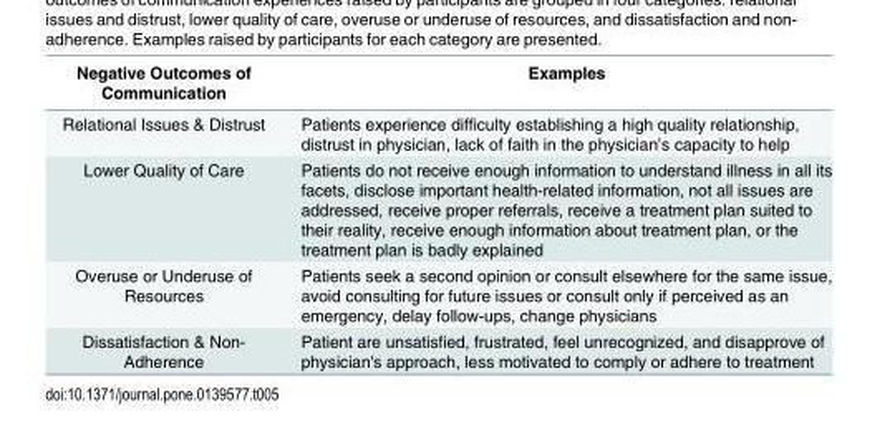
<table><thead><tr><td>Negative Outcomes of Communication</td><td>Examples</td></tr></thead><tbody><tr><td>Relational Issues &amp; Distrust</td><td>Patients experience difficulty establishing a high quality relationship, distrust in physician, lack of faith in the physician’s capacity to help</td></tr><tr><td>Lower Quality of Care</td><td>Patients do not receive enough information to understand illness in all its facets, disclose important health-related information, not all issues are addressed, receive proper referrals, receive a treatment plan suited to their reality, receive enough information about treatment plan, or the treatment plan is badly explained</td></tr><tr><td>Overuse or Underuse of Resources</td><td>Patients seek a second opinion or consult elsewhere for the same issue, avoid consulting for future issues or consult only if perceived as an emergency, delay follow-ups, change physicians</td></tr><tr><td>Dissatisfaction &amp; Non- Adherence</td><td>Patient are unsatisfied, frustrated, feel unrecognized, and disapprove of physician&#x27;s approach, less motivated to comply or adhere to treatment</td></tr></tbody></table>